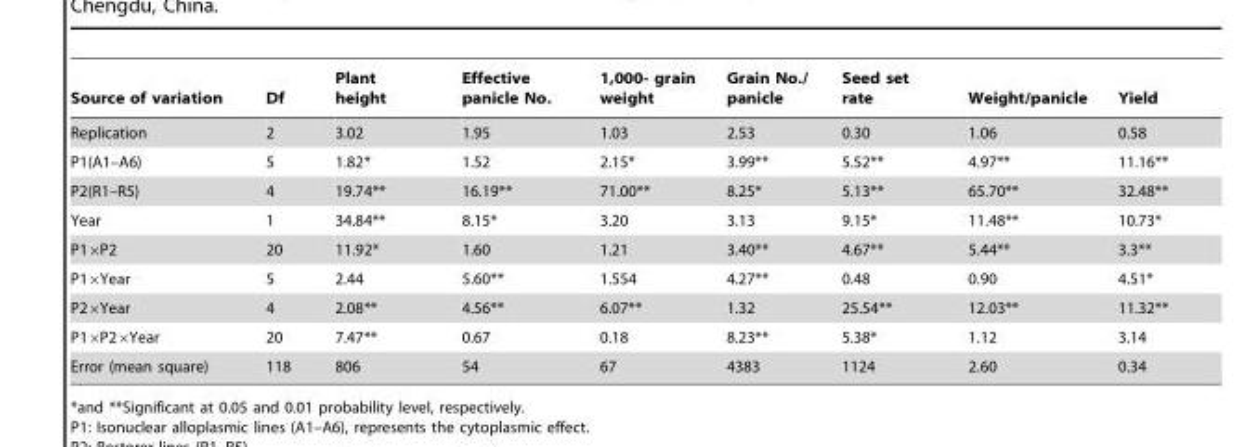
<table><thead><tr><td>Source of variation</td><td>Df</td><td>Plant height</td><td>Effective panicle No.</td><td>1,000- grain weight</td><td>Grain No./ panicle</td><td>Seed set rate</td><td>Weight/panicle</td><td>Yield</td></tr></thead><tbody><tr><td>Replication</td><td>2</td><td>3.02</td><td>1.95</td><td>1.03</td><td>2.53</td><td>0.30</td><td>1.06</td><td>0.58</td></tr><tr><td>P1(A1–A6)</td><td>5</td><td>1.82*</td><td>1.52</td><td>2.15*</td><td>3.99**</td><td>5.52**</td><td>4.97**</td><td>11.16**</td></tr><tr><td>P2(R1–R5)</td><td>4</td><td>19.74**</td><td>16.19**</td><td>71.00**</td><td>8.25*</td><td>5.13**</td><td>65.70**</td><td>32.48**</td></tr><tr><td>Year</td><td>1</td><td>34.84**</td><td>8.15*</td><td>3.20</td><td>3.13</td><td>9.15*</td><td>11.48**</td><td>10.73*</td></tr><tr><td>P1×P2</td><td>20</td><td>11.92*</td><td>1.60</td><td>1.21</td><td>3.40**</td><td>4.67**</td><td>5.44**</td><td>3.3**</td></tr><tr><td>P1×Year</td><td>5</td><td>2.44</td><td>5.60**</td><td>1.554</td><td>4.27**</td><td>0.48</td><td>0.90</td><td>4.51*</td></tr><tr><td>P2×Year</td><td>4</td><td>2.08**</td><td>4.56**</td><td>6.07**</td><td>1.32</td><td>25.54**</td><td>12.03**</td><td>11.32**</td></tr><tr><td>P1×P2×Year</td><td>20</td><td>7.47**</td><td>0.67</td><td>0.18</td><td>8.23**</td><td>5.38*</td><td>1.12</td><td>3.14</td></tr><tr><td>Error (mean square)</td><td>118</td><td>806</td><td>54</td><td>67</td><td>4383</td><td>1124</td><td>2.60</td><td>0.34</td></tr></tbody></table>